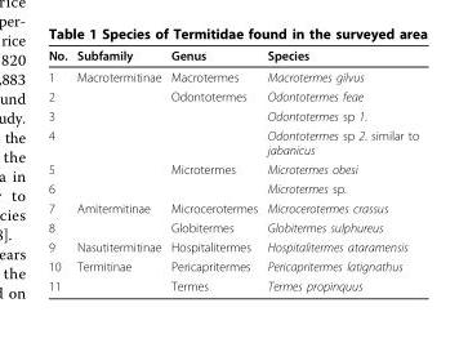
<table><thead><tr><td>No.</td><td>Subfamily</td><td>Genus</td><td>Species</td></tr></thead><tbody><tr><td>1</td><td>Macrotermitinae</td><td>Macrotermes</td><td>Macrotermes gilvus</td></tr><tr><td>2</td><td></td><td>Odontotermes</td><td>Odontotermes feae</td></tr><tr><td>3</td><td></td><td></td><td>Odontotermes sp 1.</td></tr><tr><td>4</td><td></td><td></td><td>Odontotermes sp 2. similar to jabanicus</td></tr><tr><td>5</td><td></td><td>Microtermes</td><td>Microtermes obesi</td></tr><tr><td>6</td><td></td><td></td><td>Microtermes sp.</td></tr><tr><td>7</td><td>Amitermitinae</td><td>Microcerotermes</td><td>Microcerotermes crassus</td></tr><tr><td>8</td><td></td><td>Globitermes</td><td>Globitermes sulphureus</td></tr><tr><td>9</td><td>Nasutitermitinae</td><td>Hospitalitermes</td><td>Hospitalitermes ataramensis</td></tr><tr><td>10</td><td>Termitinae</td><td>Pericapritermes</td><td>Pericapritermes latignathus</td></tr><tr><td>11</td><td></td><td>Termes</td><td>Termes propinquus</td></tr></tbody></table>